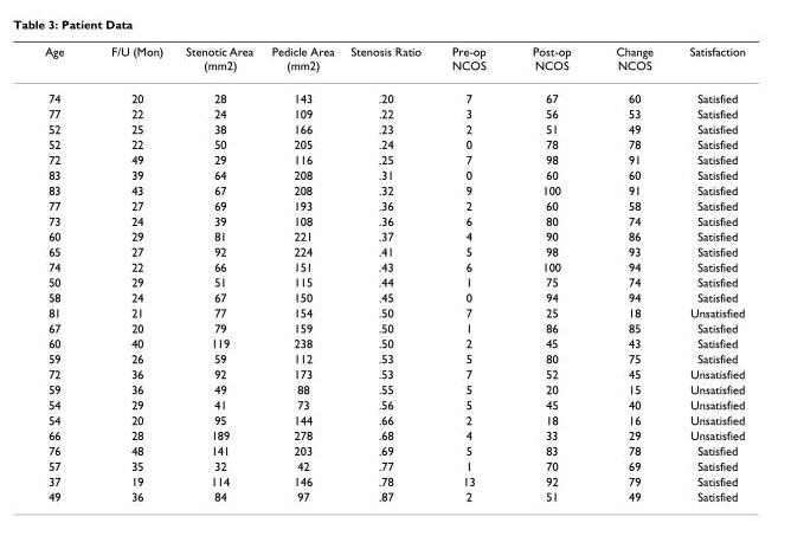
<table><thead><tr><td>Age</td><td>F/U (Mon)</td><td>Stenotic Area (mm2)</td><td>Pedicle Area (mm2)</td><td>Stenosis Ratio</td><td>Pre-op NCOS</td><td>Post-op NCOS</td><td>Change NCOS</td><td>Satisfaction</td></tr></thead><tbody><tr><td>74</td><td>20</td><td>28</td><td>143</td><td>.20</td><td>7</td><td>67</td><td>60</td><td>Satisfied</td></tr><tr><td>77</td><td>22</td><td>24</td><td>109</td><td>.22</td><td>3</td><td>56</td><td>53</td><td>Satisfied</td></tr><tr><td>52</td><td>25</td><td>38</td><td>166</td><td>.23</td><td>2</td><td>51</td><td>49</td><td>Satisfied</td></tr><tr><td>52</td><td>22</td><td>50</td><td>205</td><td>.24</td><td>0</td><td>78</td><td>78</td><td>Satisfied</td></tr><tr><td>72</td><td>49</td><td>29</td><td>116</td><td>.25</td><td>7</td><td>98</td><td>91</td><td>Satisfied</td></tr><tr><td>83</td><td>39</td><td>64</td><td>208</td><td>.31</td><td>0</td><td>60</td><td>60</td><td>Satisfied</td></tr><tr><td>83</td><td>43</td><td>67</td><td>208</td><td>.32</td><td>9</td><td>100</td><td>91</td><td>Satisfied</td></tr><tr><td>77</td><td>27</td><td>69</td><td>193</td><td>.36</td><td>2</td><td>60</td><td>58</td><td>Satisfied</td></tr><tr><td>73</td><td>24</td><td>39</td><td>108</td><td>.36</td><td>6</td><td>80</td><td>74</td><td>Satisfied</td></tr><tr><td>60</td><td>29</td><td>81</td><td>221</td><td>.37</td><td>4</td><td>90</td><td>86</td><td>Satisfied</td></tr><tr><td>65</td><td>27</td><td>92</td><td>224</td><td>.41</td><td>5</td><td>98</td><td>93</td><td>Satisfied</td></tr><tr><td>74</td><td>22</td><td>66</td><td>151</td><td>.43</td><td>6</td><td>100</td><td>94</td><td>Satisfied</td></tr><tr><td>50</td><td>29</td><td>51</td><td>115</td><td>.44</td><td>1</td><td>75</td><td>74</td><td>Satisfied</td></tr><tr><td>58</td><td>24</td><td>67</td><td>150</td><td>.45</td><td>0</td><td>94</td><td>94</td><td>Satisfied</td></tr><tr><td>81</td><td>21</td><td>77</td><td>154</td><td>.50</td><td>7</td><td>25</td><td>18</td><td>Unsatisfied</td></tr><tr><td>67</td><td>20</td><td>79</td><td>159</td><td>.50</td><td>1</td><td>86</td><td>85</td><td>Satisfied</td></tr><tr><td>60</td><td>40</td><td>119</td><td>238</td><td>.50</td><td>2</td><td>45</td><td>43</td><td>Satisfied</td></tr><tr><td>59</td><td>26</td><td>59</td><td>112</td><td>.53</td><td>5</td><td>80</td><td>75</td><td>Satisfied</td></tr><tr><td>72</td><td>36</td><td>92</td><td>173</td><td>.53</td><td>7</td><td>52</td><td>45</td><td>Unsatisfied</td></tr><tr><td>59</td><td>36</td><td>49</td><td>88</td><td>.55</td><td>5</td><td>20</td><td>15</td><td>Unsatisfied</td></tr><tr><td>54</td><td>29</td><td>41</td><td>73</td><td>.56</td><td>5</td><td>45</td><td>40</td><td>Unsatisfied</td></tr><tr><td>54</td><td>20</td><td>95</td><td>144</td><td>.66</td><td>2</td><td>18</td><td>16</td><td>Unsatisfied</td></tr><tr><td>66</td><td>28</td><td>189</td><td>278</td><td>.68</td><td>4</td><td>33</td><td>29</td><td>Unsatisfied</td></tr><tr><td>76</td><td>48</td><td>141</td><td>203</td><td>.69</td><td>5</td><td>83</td><td>78</td><td>Satisfied</td></tr><tr><td>57</td><td>35</td><td>32</td><td>42</td><td>.77</td><td>1</td><td>70</td><td>69</td><td>Satisfied</td></tr><tr><td>37</td><td>19</td><td>114</td><td>146</td><td>.78</td><td>13</td><td>92</td><td>79</td><td>Satisfied</td></tr><tr><td>49</td><td>36</td><td>84</td><td>97</td><td>.87</td><td>2</td><td>51</td><td>49</td><td>Satisfied</td></tr></tbody></table>